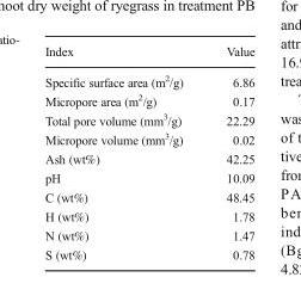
<table><thead><tr><td>Index</td><td>Value</td></tr></thead><tbody><tr><td>Specific surface area (m<sup>2</sup>/g)</td><td>6.86</td></tr><tr><td>Micropore area (m<sup>2</sup>/g)</td><td>0.17</td></tr><tr><td>Total pore volume (mm<sup>3</sup>/g)</td><td>22.29</td></tr><tr><td>Micropore volume (mm<sup>3</sup>/g)</td><td>0.02</td></tr><tr><td>Ash (wt%)</td><td>42.25</td></tr><tr><td>pH</td><td>10.09</td></tr><tr><td>C (wt%)</td><td>48.45</td></tr><tr><td>H (wt%)</td><td>1.78</td></tr><tr><td>N (wt%)</td><td>1.47</td></tr><tr><td>S (wt%)</td><td>0.78</td></tr></tbody></table>